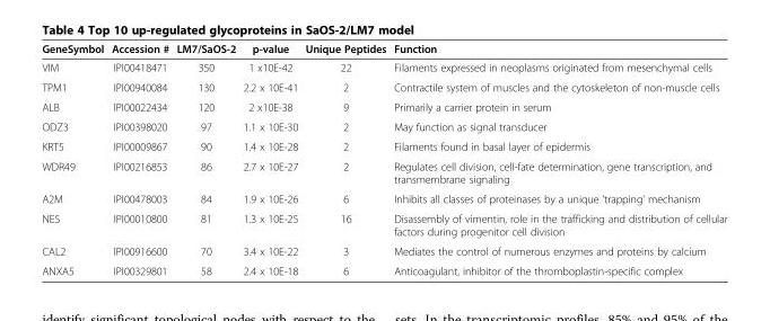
<table><thead><tr><td>GeneSymbol</td><td>Accession #</td><td>LM7/SaOS-2</td><td>p-value</td><td>Unique Peptides</td><td>Function</td></tr></thead><tbody><tr><td>VIM</td><td>IPI00418471</td><td>350</td><td>1 x10E-42</td><td>22</td><td>Filaments expressed in neoplasms originated from mesenchymal cells</td></tr><tr><td>TPM1</td><td>IPI00940084</td><td>130</td><td>2.2 x 10E-41</td><td>2</td><td>Contractile system of muscles and the cytoskeleton of non-muscle cells</td></tr><tr><td>ALB</td><td>IPI00022434</td><td>120</td><td>2 x10E-38</td><td>9</td><td>Primarily a carrier protein in serum</td></tr><tr><td>ODZ3</td><td>IPI00398020</td><td>97</td><td>1.1 x 10E-30</td><td>2</td><td>May function as signal transducer</td></tr><tr><td>KRT5</td><td>IPI00009867</td><td>90</td><td>1.4 x 10E-28</td><td>2</td><td>Filaments found in basal layer of epidermis</td></tr><tr><td>WDR49</td><td>IPI00216853</td><td>86</td><td>2.7 x 10E-27</td><td>2</td><td>Regulates cell division, cell-fate determination, gene transcription, and transmembrane signaling</td></tr><tr><td>A2M</td><td>IPI00478003</td><td>84</td><td>1.9 x 10E-26</td><td>6</td><td>Inhibits all classes of proteinases by a unique &#x27;trapping&#x27; mechanism</td></tr><tr><td>NES</td><td>IPI00010800</td><td>81</td><td>1.3 x 10E-25</td><td>16</td><td>Disassembly of vimentin, role in the trafficking and distribution of cellular factors during progenitor cell division</td></tr><tr><td>CAL2</td><td>IPI00916600</td><td>70</td><td>3.4 x 10E-22</td><td>3</td><td>Mediates the control of numerous enzymes and proteins by calcium</td></tr><tr><td>ANXA5</td><td>IPI00329801</td><td>58</td><td>2.4 x 10E-18</td><td>6</td><td>Anticoagulant, inhibitor of the thromboplastin-specific complex</td></tr></tbody></table>